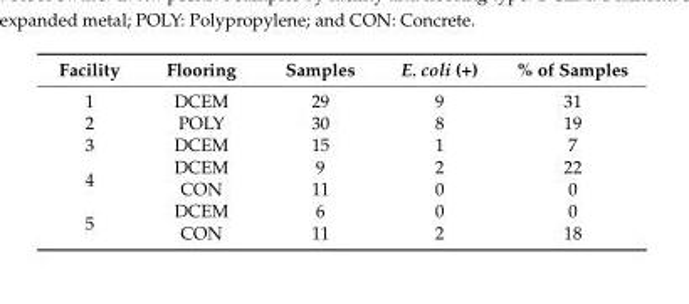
<table><thead><tr><td>Facility</td><td>Flooring</td><td>Samples</td><td>E. coli (+)</td><td>% of Samples</td></tr></thead><tbody><tr><td>1</td><td>DCEM</td><td>29</td><td>9</td><td>31</td></tr><tr><td>2</td><td>POLY</td><td>30</td><td>8</td><td>19</td></tr><tr><td>3</td><td>DCEM</td><td>15</td><td>1</td><td>7</td></tr><tr><td rowspan="2">4</td><td>DCEM</td><td>9</td><td>2</td><td>22</td></tr><tr><td>CON</td><td>11</td><td>0</td><td>0</td></tr><tr><td rowspan="2">5</td><td>DCEM</td><td>6</td><td>0</td><td>0</td></tr><tr><td>CON</td><td>11</td><td>2</td><td>18</td></tr></tbody></table>